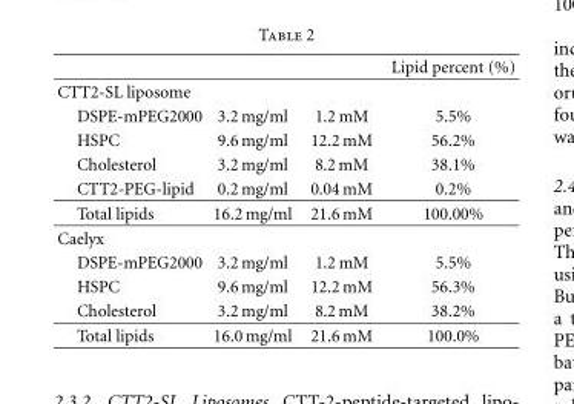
<table><thead><tr><td></td><td></td><td></td><td>Lipid percent (%)</td></tr></thead><tbody><tr><td colspan="4">CTT2-SL liposome</td></tr><tr><td>DSPE-mPEG2000</td><td>3.2 mg/ml</td><td>1.2 mM</td><td>5.5%</td></tr><tr><td>HSPC</td><td>9.6 mg/ml</td><td>12.2 mM</td><td>56.2%</td></tr><tr><td>Cholesterol</td><td>3.2 mg/ml</td><td>8.2 mM</td><td>38.1%</td></tr><tr><td>CTT2-PEG-lipid</td><td>0.2 mg/ml</td><td>0.04 mM</td><td>0.2%</td></tr><tr><td>Total lipids</td><td>16.2 mg/ml</td><td>21.6 mM</td><td>100.00%</td></tr><tr><td colspan="4">Caelyx</td></tr><tr><td>DSPE-mPEG2000</td><td>3.2 mg/ml</td><td>1.2 mM</td><td>5.5%</td></tr><tr><td>HSPC</td><td>9.6 mg/ml</td><td>12.2 mM</td><td>56.3%</td></tr><tr><td>Cholesterol</td><td>3.2 mg/ml</td><td>8.2 mM</td><td>38.2%</td></tr><tr><td>Total lipids</td><td>16.0 mg/ml</td><td>21.6 mM</td><td>100.0%</td></tr></tbody></table>